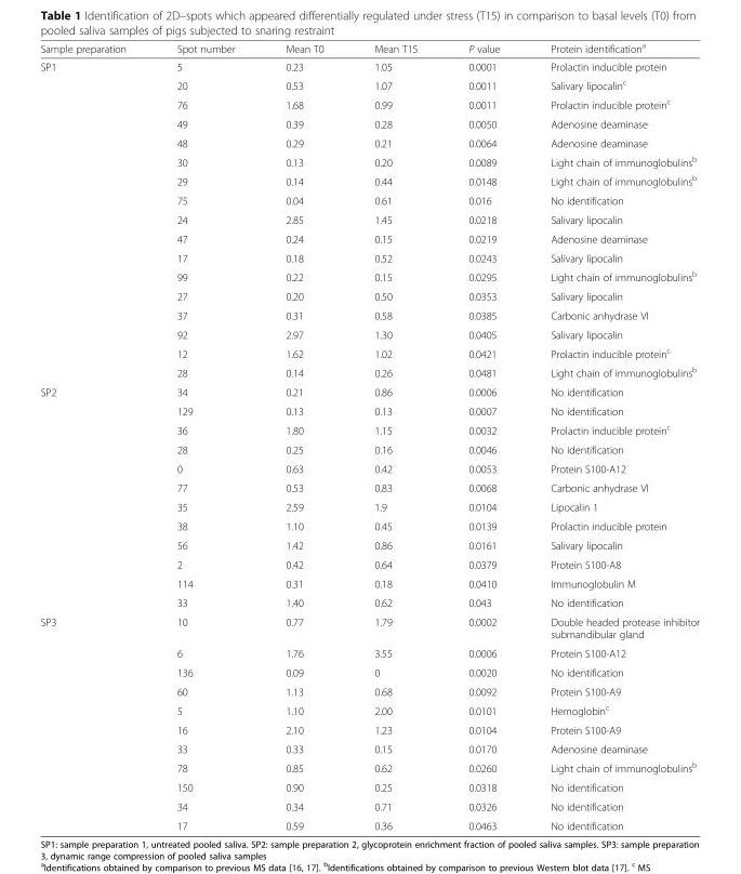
<table><thead><tr><td>Sample preparation</td><td>Spot number</td><td>Mean T0</td><td>Mean T15</td><td>P value</td><td>Protein identification<sup>a</sup></td></tr></thead><tbody><tr><td rowspan="17">SP1</td><td>5</td><td>0.23</td><td>1.05</td><td>0.0001</td><td>Prolactin inducible protein</td></tr><tr><td>20</td><td>0.53</td><td>1.07</td><td>0.0011</td><td>Salivary lipocalin<sup>c</sup></td></tr><tr><td>76</td><td>1.68</td><td>0.99</td><td>0.0011</td><td>Prolactin inducible protein<sup>c</sup></td></tr><tr><td>49</td><td>0.39</td><td>0.28</td><td>0.0050</td><td>Adenosine deaminase</td></tr><tr><td>48</td><td>0.29</td><td>0.21</td><td>0.0064</td><td>Adenosine deaminase</td></tr><tr><td>30</td><td>0.13</td><td>0.20</td><td>0.0089</td><td>Light chain of immunoglobulins<sup>b</sup></td></tr><tr><td>29</td><td>0.14</td><td>0.44</td><td>0.0148</td><td>Light chain of immunoglobulins<sup>b</sup></td></tr><tr><td>75</td><td>0.04</td><td>0.61</td><td>0.016</td><td>No identification</td></tr><tr><td>24</td><td>2.85</td><td>1.45</td><td>0.0218</td><td>Salivary lipocalin</td></tr><tr><td>47</td><td>0.24</td><td>0.15</td><td>0.0219</td><td>Adenosine deaminase</td></tr><tr><td>17</td><td>0.18</td><td>0.52</td><td>0.0243</td><td>Salivary lipocalin</td></tr><tr><td>99</td><td>0.22</td><td>0.15</td><td>0.0295</td><td>Light chain of immunoglobulins<sup>b</sup></td></tr><tr><td>27</td><td>0.20</td><td>0.50</td><td>0.0353</td><td>Salivary lipocalin</td></tr><tr><td>37</td><td>0.31</td><td>0.58</td><td>0.0385</td><td>Carbonic anhydrase VI</td></tr><tr><td>92</td><td>2.97</td><td>1.30</td><td>0.0405</td><td>Salivary lipocalin</td></tr><tr><td>12</td><td>1.62</td><td>1.02</td><td>0.0421</td><td>Prolactin inducible protein<sup>c</sup></td></tr><tr><td>28</td><td>0.14</td><td>0.26</td><td>0.0481</td><td>Light chain of immunoglobulins<sup>b</sup></td></tr><tr><td rowspan="12">SP2</td><td>34</td><td>0.21</td><td>0.86</td><td>0.0006</td><td>No identification</td></tr><tr><td>129</td><td>0.13</td><td>0.13</td><td>0.0007</td><td>No identification</td></tr><tr><td>36</td><td>1.80</td><td>1.15</td><td>0.0032</td><td>Prolactin inducible protein<sup>c</sup></td></tr><tr><td>28</td><td>0.25</td><td>0.16</td><td>0.0046</td><td>No identification</td></tr><tr><td>0</td><td>0.63</td><td>0.42</td><td>0.0053</td><td>Protein S100-A12</td></tr><tr><td>77</td><td>0.53</td><td>0.83</td><td>0.0068</td><td>Carbonic anhydrase VI</td></tr><tr><td>35</td><td>2.59</td><td>1.9</td><td>0.0104</td><td>Lipocalin 1</td></tr><tr><td>38</td><td>1.10</td><td>0.45</td><td>0.0139</td><td>Prolactin inducible protein</td></tr><tr><td>56</td><td>1.42</td><td>0.86</td><td>0.0161</td><td>Salivary lipocalin</td></tr><tr><td>2</td><td>0.42</td><td>0.64</td><td>0.0379</td><td>Protein S100-A8</td></tr><tr><td>114</td><td>0.31</td><td>0.18</td><td>0.0410</td><td>Immunoglobulin M</td></tr><tr><td>33</td><td>1.40</td><td>0.62</td><td>0.043</td><td>No identification</td></tr><tr><td rowspan="11">SP3</td><td>10</td><td>0.77</td><td>1.79</td><td>0.0002</td><td>Double headed protease inhibitor submandibular gland</td></tr><tr><td>6</td><td>1.76</td><td>3.55</td><td>0.0006</td><td>Protein S100-A12</td></tr><tr><td>136</td><td>0.09</td><td>0</td><td>0.0020</td><td>No identification</td></tr><tr><td>60</td><td>1.13</td><td>0.68</td><td>0.0092</td><td>Protein S100-A9</td></tr><tr><td>5</td><td>1.10</td><td>2.00</td><td>0.0101</td><td>Hemoglobin<sup>c</sup></td></tr><tr><td>16</td><td>2.10</td><td>1.23</td><td>0.0104</td><td>Protein S100-A9</td></tr><tr><td>33</td><td>0.33</td><td>0.15</td><td>0.0170</td><td>Adenosine deaminase</td></tr><tr><td>78</td><td>0.85</td><td>0.62</td><td>0.0260</td><td>Light chain of immunoglobulins<sup>b</sup></td></tr><tr><td>150</td><td>0.90</td><td>0.25</td><td>0.0318</td><td>No identification</td></tr><tr><td>34</td><td>0.34</td><td>0.71</td><td>0.0326</td><td>No identification</td></tr><tr><td>17</td><td>0.59</td><td>0.36</td><td>0.0463</td><td>No identification</td></tr></tbody></table>